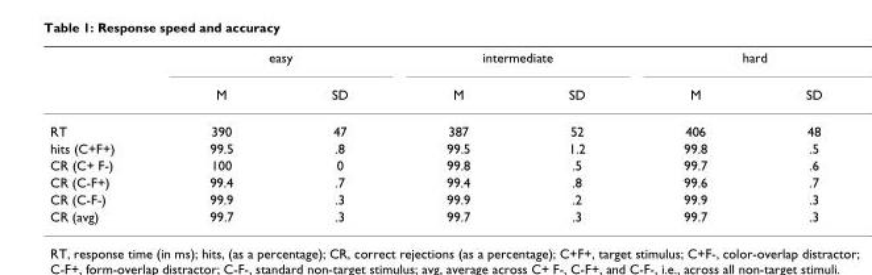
<table><thead><tr><td rowspan="2"></td><td colspan="2">easy</td><td colspan="2">intermediate</td><td colspan="2">hard</td></tr><tr><td>M</td><td>SD</td><td>M</td><td>SD</td><td>M</td><td>SD</td></tr></thead><tbody><tr><td>RT</td><td>390</td><td>47</td><td>387</td><td>52</td><td>406</td><td>48</td></tr><tr><td>hits (C+F+)</td><td>99.5</td><td>.8</td><td>99.5</td><td>1.2</td><td>99.8</td><td>.5</td></tr><tr><td>CR (C+ F-)</td><td>100</td><td>0</td><td>99.8</td><td>.5</td><td>99.7</td><td>.6</td></tr><tr><td>CR (C-F+)</td><td>99.4</td><td>.7</td><td>99.4</td><td>.8</td><td>99.6</td><td>.7</td></tr><tr><td>CR (C-F-)</td><td>99.9</td><td>.3</td><td>99.9</td><td>.2</td><td>99.9</td><td>.3</td></tr><tr><td>CR (avg)</td><td>99.7</td><td>.3</td><td>99.7</td><td>.3</td><td>99.7</td><td>.3</td></tr></tbody></table>